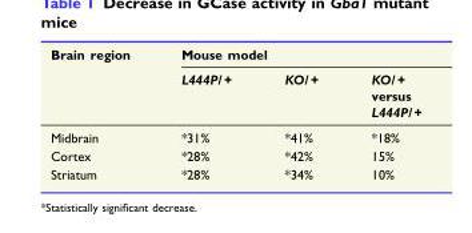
<table><thead><tr><td rowspan="2">Brain region</td><td colspan="3">Mouse model</td></tr><tr><td>L444P/ +</td><td>KO/ +</td><td>KO/ + versus L444P/ +</td></tr></thead><tbody><tr><td>Midbrain</td><td>*31%</td><td>*41%</td><td>*18%</td></tr><tr><td>Cortex</td><td>*28%</td><td>*42%</td><td>15%</td></tr><tr><td>Striatum</td><td>*28%</td><td>*34%</td><td>10%</td></tr></tbody></table>